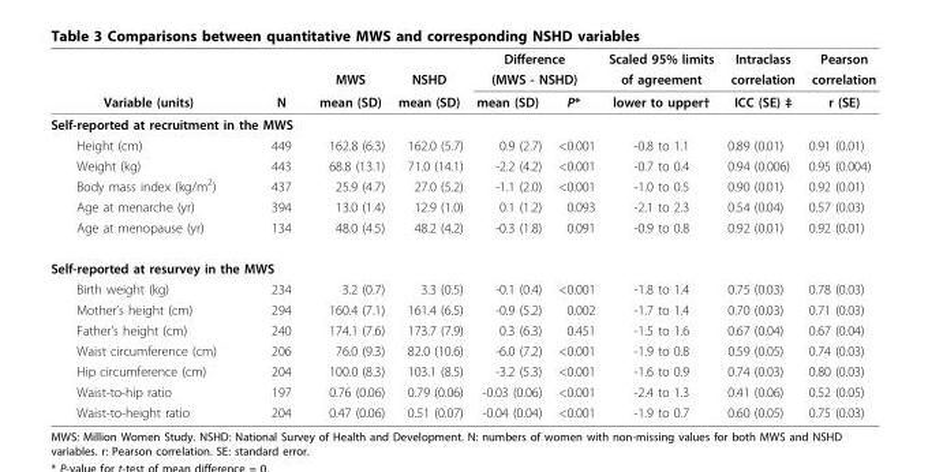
<table><thead><tr><td rowspan="3">Variable (units)</td><td rowspan="3">N</td><td rowspan="3">MWS mean (SD)</td><td rowspan="3">NSHD mean (SD)</td><td rowspan="2" colspan="2">Difference (MWS - NSHD)</td><td rowspan="3">Scaled 95% limits of agreement lower to upper†</td><td rowspan="3">Intraclass correlation ICC (SE) ‡</td><td rowspan="3">Pearson correlation r (SE)</td></tr><tr></tr><tr><td>mean (SD)</td><td>P*</td></tr></thead><tbody><tr><td colspan="9">Self-reported at recruitment in the MWS</td></tr><tr><td>Height (cm)</td><td>449</td><td>162.8 (6.3)</td><td>162.0 (5.7)</td><td>0.9 (2.7)</td><td>&lt;0.001</td><td>-0.8 to 1.1</td><td>0.89 (0.01)</td><td>0.91 (0.01)</td></tr><tr><td>Weight (kg)</td><td>443</td><td>68.8 (13.1)</td><td>71.0 (14.1)</td><td>-2.2 (4.2)</td><td>&lt;0.001</td><td>-0.7 to 0.4</td><td>0.94 (0.006)</td><td>0.95 (0.004)</td></tr><tr><td>Body mass index (kg/m2)</td><td>437</td><td>25.9 (4.7)</td><td>27.0 (5.2)</td><td>-1.1 (2.0)</td><td>&lt;0.001</td><td>-1.0 to 0.5</td><td>0.90 (0.01)</td><td>0.92 (0.01)</td></tr><tr><td>Age at menarche (yr)</td><td>394</td><td>13.0 (1.4)</td><td>12.9 (1.0)</td><td>0.1 (1.2)</td><td>0.093</td><td>-2.1 to 2.3</td><td>0.54 (0.04)</td><td>0.57 (0.03)</td></tr><tr><td>Age at menopause (yr)</td><td>134</td><td>48.0 (4.5)</td><td>48.2 (4.2)</td><td>-0.3 (1.8)</td><td>0.091</td><td>-0.9 to 0.8</td><td>0.92 (0.01)</td><td>0.92 (0.01)</td></tr><tr><td colspan="9">Self-reported at resurvey in the MWS</td></tr><tr><td>Birth weight (kg)</td><td>234</td><td>3.2 (0.7)</td><td>3.3 (0.5)</td><td>-0.1 (0.4)</td><td>&lt;0.001</td><td>-1.8 to 1.4</td><td>0.75 (0.03)</td><td>0.78 (0.03)</td></tr><tr><td>Mother’s height (cm)</td><td>294</td><td>160.4 (7.1)</td><td>161.4 (6.5)</td><td>-0.9 (5.2)</td><td>0.002</td><td>-1.7 to 1.4</td><td>0.70 (0.03)</td><td>0.71 (0.03)</td></tr><tr><td>Father’s height (cm)</td><td>240</td><td>174.1 (7.6)</td><td>173.7 (7.9)</td><td>0.3 (6.3)</td><td>0.451</td><td>-1.5 to 1.6</td><td>0.67 (0.04)</td><td>0.67 (0.04)</td></tr><tr><td>Waist circumference (cm)</td><td>206</td><td>76.0 (9.3)</td><td>82.0 (10.6)</td><td>-6.0 (7.2)</td><td>&lt;0.001</td><td>-1.9 to 0.8</td><td>0.59 (0.05)</td><td>0.74 (0.03)</td></tr><tr><td>Hip circumference (cm)</td><td>204</td><td>100.0 (8.3)</td><td>103.1 (8.5)</td><td>-3.2 (5.3)</td><td>&lt;0.001</td><td>-1.6 to 0.9</td><td>0.74 (0.03)</td><td>0.80 (0.03)</td></tr><tr><td>Waist-to-hip ratio</td><td>197</td><td>0.76 (0.06)</td><td>0.79 (0.06)</td><td>-0.03 (0.06)</td><td>&lt;0.001</td><td>-2.4 to 1.3</td><td>0.41 (0.06)</td><td>0.52 (0.05)</td></tr><tr><td>Waist-to-height ratio</td><td>204</td><td>0.47 (0.06)</td><td>0.51 (0.07)</td><td>-0.04 (0.04)</td><td>&lt;0.001</td><td>-1.9 to 0.7</td><td>0.60 (0.05)</td><td>0.75 (0.03)</td></tr></tbody></table>